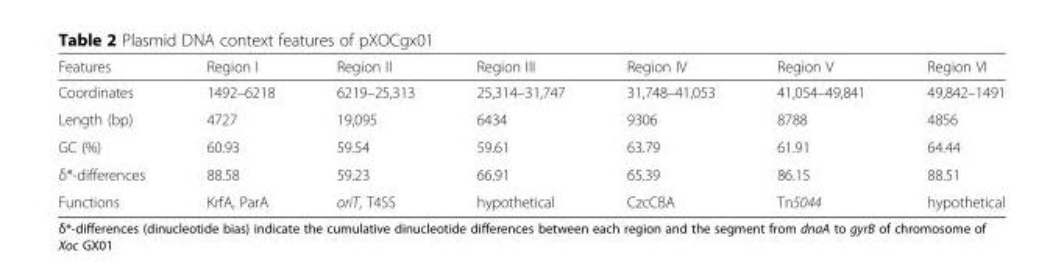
<table><thead><tr><td>Features</td><td>Region I</td><td>Region II</td><td>Region III</td><td>Region IV</td><td>Region V</td><td>Region VI</td></tr></thead><tbody><tr><td>Coordinates</td><td>1492–6218</td><td>6219–25,313</td><td>25,314–31,747</td><td>31,748–41,053</td><td>41,054–49,841</td><td>49,842–1491</td></tr><tr><td>Length (bp)</td><td>4727</td><td>19,095</td><td>6434</td><td>9306</td><td>8788</td><td>4856</td></tr><tr><td>GC (%)</td><td>60.93</td><td>59.54</td><td>59.61</td><td>63.79</td><td>61.91</td><td>64.44</td></tr><tr><td>δ*-differences</td><td>88.58</td><td>59.23</td><td>66.91</td><td>65.39</td><td>86.15</td><td>88.51</td></tr><tr><td>Functions</td><td>KrfA, ParA</td><td>oriT, T4SS</td><td>hypothetical</td><td>CzcCBA</td><td>Tn5044</td><td>hypothetical</td></tr></tbody></table>